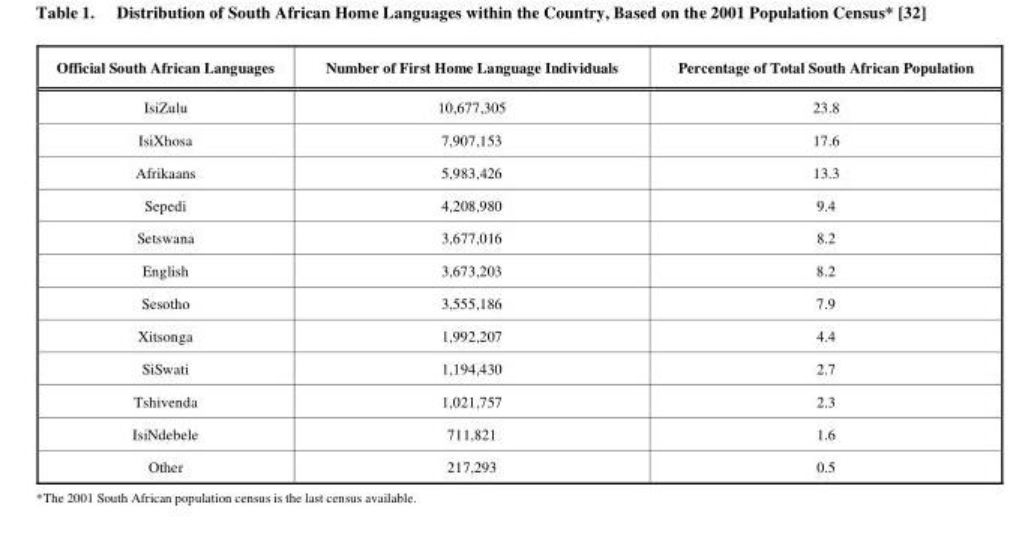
<table><thead><tr><td>Official South African Languages</td><td>Number of First Home Language Individuals</td><td>Percentage of Total South African Population</td></tr></thead><tbody><tr><td>IsiZulu</td><td>10,677,305</td><td>23.8</td></tr><tr><td>IsiXhosa</td><td>7,907,153</td><td>17.6</td></tr><tr><td>Afrikaans</td><td>5,983,426</td><td>13.3</td></tr><tr><td>Sepedi</td><td>4,208,980</td><td>9.4</td></tr><tr><td>Setswana</td><td>3,677,016</td><td>8.2</td></tr><tr><td>English</td><td>3,673,203</td><td>8.2</td></tr><tr><td>Sesotho</td><td>3,555,186</td><td>7.9</td></tr><tr><td>Xitsonga</td><td>1,992,207</td><td>4.4</td></tr><tr><td>SiSwati</td><td>1,194,430</td><td>2.7</td></tr><tr><td>Tshivenda</td><td>1,021,757</td><td>2.3</td></tr><tr><td>IsiNdebele</td><td>711,821</td><td>1.6</td></tr><tr><td>Other</td><td>217,293</td><td>0.5</td></tr></tbody></table>